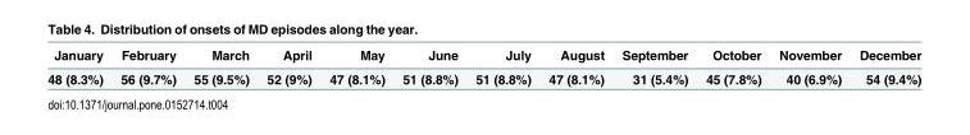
<table><thead><tr><td>January</td><td>February</td><td>March</td><td>April</td><td>May</td><td>June</td><td>July</td><td>August</td><td>September</td><td>October</td><td>November</td><td>December</td></tr></thead><tbody><tr><td>48 (8.3%)</td><td>56 (9.7%)</td><td>55 (9.5%)</td><td>52 (9%)</td><td>47 (8.1%)</td><td>51 (8.8%)</td><td>51 (8.8%)</td><td>47 (8.1%)</td><td>31 (5.4%)</td><td>45 (7.8%)</td><td>40 (6.9%)</td><td>54 (9.4%)</td></tr></tbody></table>